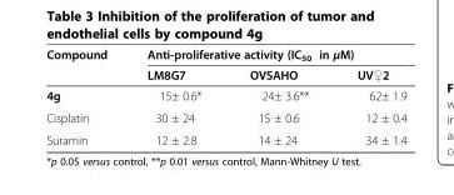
<table><thead><tr><td rowspan="2">Compound</td><td colspan="3">Anti-proliferative activity (IC<sub>50</sub> in μM)</td></tr><tr><td>LM8G7</td><td>OVSAHO</td><td>UV♀2</td></tr></thead><tbody><tr><td>4g</td><td>15± 0.6*</td><td>24± 3.6**</td><td>62± 1.9</td></tr><tr><td>Cisplatin</td><td>30 ± 24</td><td>15 ± 0.6</td><td>12 ± 0.4</td></tr><tr><td>Suramin</td><td>12 ± 2.8</td><td>14 ± 24</td><td>34 ± 1.4</td></tr></tbody></table>